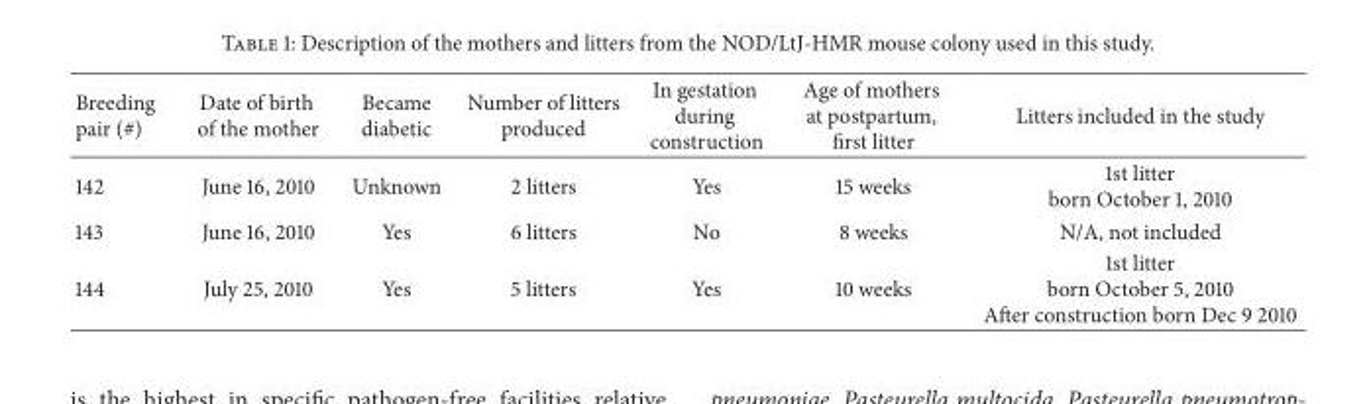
<table><thead><tr><td>Breeding pair (#)</td><td>Date of birth of the mother</td><td>Became diabetic</td><td>Number of litters produced</td><td>In gestation during construction</td><td>Age of mothers at postpartum, first litter</td><td>Litters included in the study</td></tr></thead><tbody><tr><td>142</td><td>June 16, 2010</td><td>Unknown</td><td>2 litters</td><td>Yes</td><td>15 weeks</td><td>1st litter born October 1, 2010</td></tr><tr><td>143</td><td>June 16, 2010</td><td>Yes</td><td>6 litters</td><td>No</td><td>8 weeks</td><td>N/A, not included</td></tr><tr><td>144</td><td>July 25, 2010</td><td>Yes</td><td>5 litters</td><td>Yes</td><td>10 weeks</td><td>1st litter born October 5, 2010 After construction born Dec 9 2010</td></tr></tbody></table>